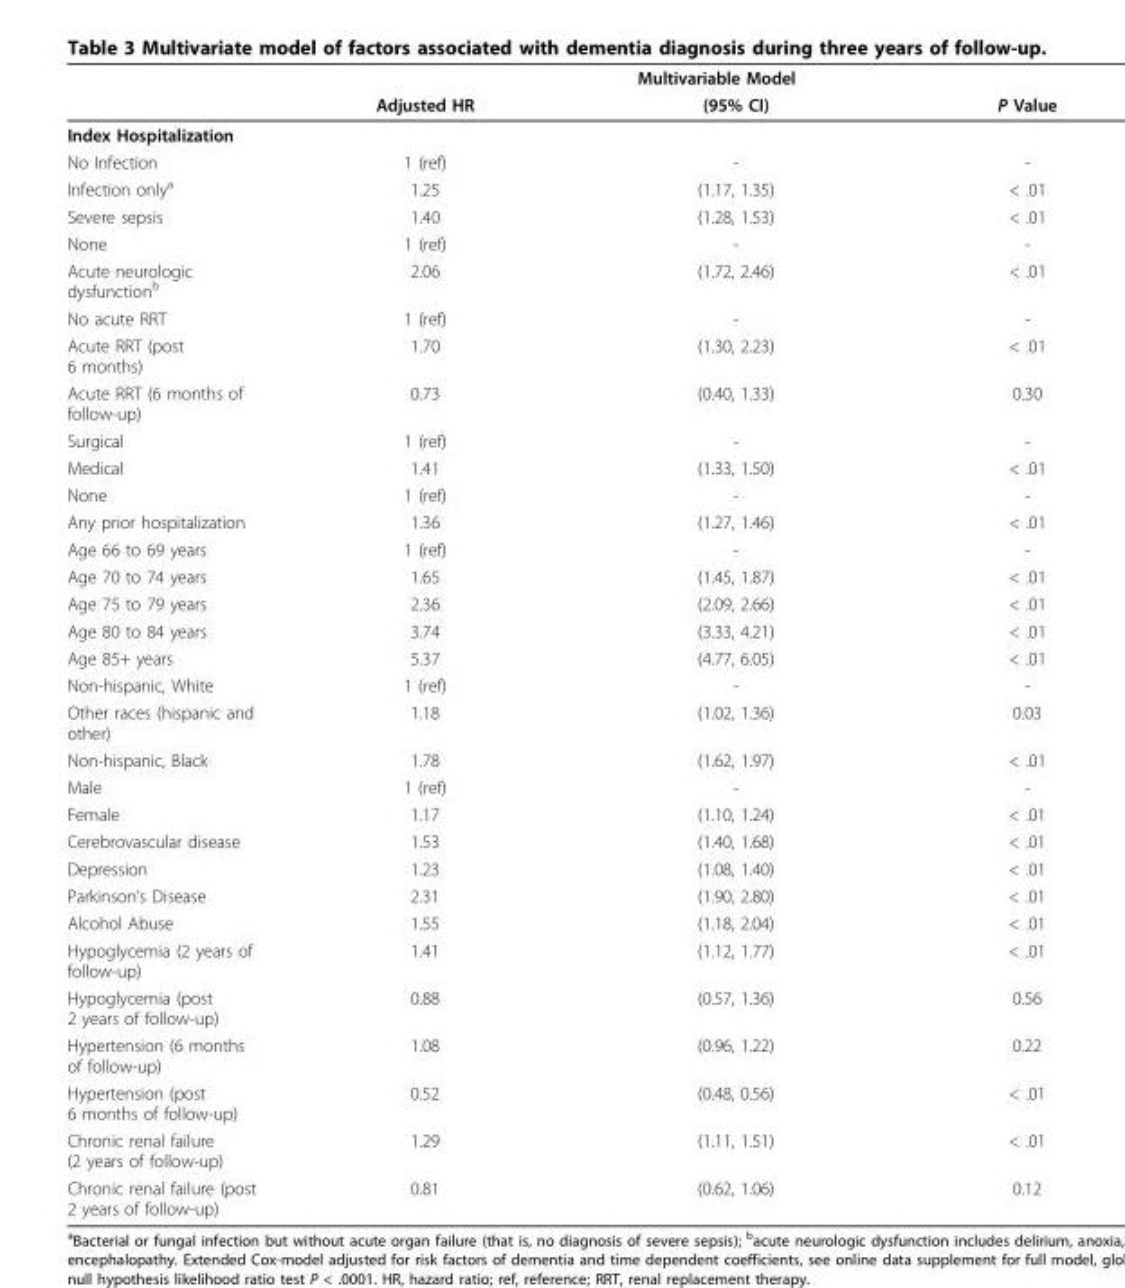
<table><thead><tr><td rowspan="2"></td><td colspan="3">Multivariable Model</td></tr><tr><td>Adjusted HR</td><td>(95% CI)</td><td>P Value</td></tr></thead><tbody><tr><td colspan="4">Index Hospitalization</td></tr><tr><td>No Infection</td><td>1 (ref)</td><td>-</td><td>-</td></tr><tr><td>Infection only<sup>a</sup></td><td>1.25</td><td>(1.17, 1.35)</td><td>&lt; .01</td></tr><tr><td>Severe sepsis</td><td>1.40</td><td>(1.28, 1.53)</td><td>&lt; .01</td></tr><tr><td>None</td><td>1 (ref)</td><td>-</td><td>-</td></tr><tr><td>Acute neurologic dysfunction<sup>b</sup></td><td>2.06</td><td>(1.72, 2.46)</td><td>&lt; .01</td></tr><tr><td>No acute RRT</td><td>1 (ref)</td><td>-</td><td>-</td></tr><tr><td>Acute RRT (post 6 months)</td><td>1.70</td><td>(1.30, 2.23)</td><td>&lt; .01</td></tr><tr><td>Acute RRT (6 months of follow-up)</td><td>0.73</td><td>(0.40, 1.33)</td><td>0.30</td></tr><tr><td>Surgical</td><td>1 (ref)</td><td>-</td><td>-</td></tr><tr><td>Medical</td><td>1.41</td><td>(1.33, 1.50)</td><td>&lt; .01</td></tr><tr><td>None</td><td>1 (ref)</td><td>-</td><td>-</td></tr><tr><td>Any prior hospitalization</td><td>1.36</td><td>(1.27, 1.46)</td><td>&lt; .01</td></tr><tr><td>Age 66 to 69 years</td><td>1 (ref)</td><td>-</td><td>-</td></tr><tr><td>Age 70 to 74 years</td><td>1.65</td><td>(1.45, 1.87)</td><td>&lt; .01</td></tr><tr><td>Age 75 to 79 years</td><td>2.36</td><td>(2.09, 2.66)</td><td>&lt; .01</td></tr><tr><td>Age 80 to 84 years</td><td>3.74</td><td>(3.33, 4.21)</td><td>&lt; .01</td></tr><tr><td>Age 85+ years</td><td>5.37</td><td>(4.77, 6.05)</td><td>&lt; .01</td></tr><tr><td>Non-hispanic, White</td><td>1 (ref)</td><td>-</td><td>-</td></tr><tr><td>Other races (hispanic and other)</td><td>1.18</td><td>(1.02, 1.36)</td><td>0.03</td></tr><tr><td>Non-hispanic, Black</td><td>1.78</td><td>(1.62, 1.97)</td><td>&lt; .01</td></tr><tr><td>Male</td><td>1 (ref)</td><td>-</td><td>-</td></tr><tr><td>Female</td><td>1.17</td><td>(1.10, 1.24)</td><td>&lt; .01</td></tr><tr><td>Cerebrovascular disease</td><td>1.53</td><td>(1.40, 1.68)</td><td>&lt; .01</td></tr><tr><td>Depression</td><td>1.23</td><td>(1.08, 1.40)</td><td>&lt; .01</td></tr><tr><td>Parkinson’s Disease</td><td>2.31</td><td>(1.90, 2.80)</td><td>&lt; .01</td></tr><tr><td>Alcohol Abuse</td><td>1.55</td><td>(1.18, 2.04)</td><td>&lt; .01</td></tr><tr><td>Hypoglycemia (2 years of follow-up)</td><td>1.41</td><td>(1.12, 1.77)</td><td>&lt; .01</td></tr><tr><td>Hypoglycemia (post 2 years of follow-up)</td><td>0.88</td><td>(0.57, 1.36)</td><td>0.56</td></tr><tr><td>Hypertension (6 months of follow-up)</td><td>1.08</td><td>(0.96, 1.22)</td><td>0.22</td></tr><tr><td>Hypertension (post 6 months of follow-up)</td><td>0.52</td><td>(0.48, 0.56)</td><td>&lt; .01</td></tr><tr><td>Chronic renal failure (2 years of follow-up)</td><td>1.29</td><td>(1.11, 1.51)</td><td>&lt; .01</td></tr><tr><td>Chronic renal failure (post 2 years of follow-up)</td><td>0.81</td><td>(0.62, 1.06)</td><td>0.12</td></tr></tbody></table>